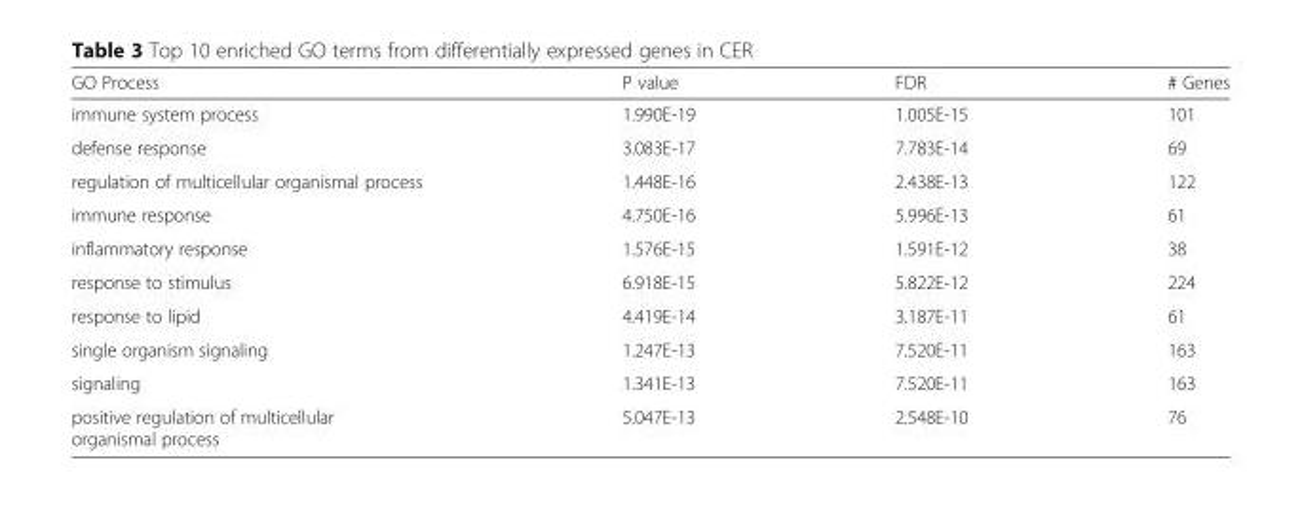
<table><thead><tr><td>GO Process</td><td>P value</td><td>FDR</td><td># Genes</td></tr></thead><tbody><tr><td>immune system process</td><td>1.990E-19</td><td>1.005E-15</td><td>101</td></tr><tr><td>defense response</td><td>3.083E-17</td><td>7.783E-14</td><td>69</td></tr><tr><td>regulation of multicellular organismal process</td><td>1.448E-16</td><td>2.438E-13</td><td>122</td></tr><tr><td>immune response</td><td>4.750E-16</td><td>5.996E-13</td><td>61</td></tr><tr><td>inflammatory response</td><td>1.576E-15</td><td>1.591E-12</td><td>38</td></tr><tr><td>response to stimulus</td><td>6.918E-15</td><td>5.822E-12</td><td>224</td></tr><tr><td>response to lipid</td><td>4.419E-14</td><td>3.187E-11</td><td>61</td></tr><tr><td>single organism signaling</td><td>1.247E-13</td><td>7.520E-11</td><td>163</td></tr><tr><td>signaling</td><td>1.341E-13</td><td>7.520E-11</td><td>163</td></tr><tr><td>positive regulation of multicellular organismal process</td><td>5.047E-13</td><td>2.548E-10</td><td>76</td></tr></tbody></table>